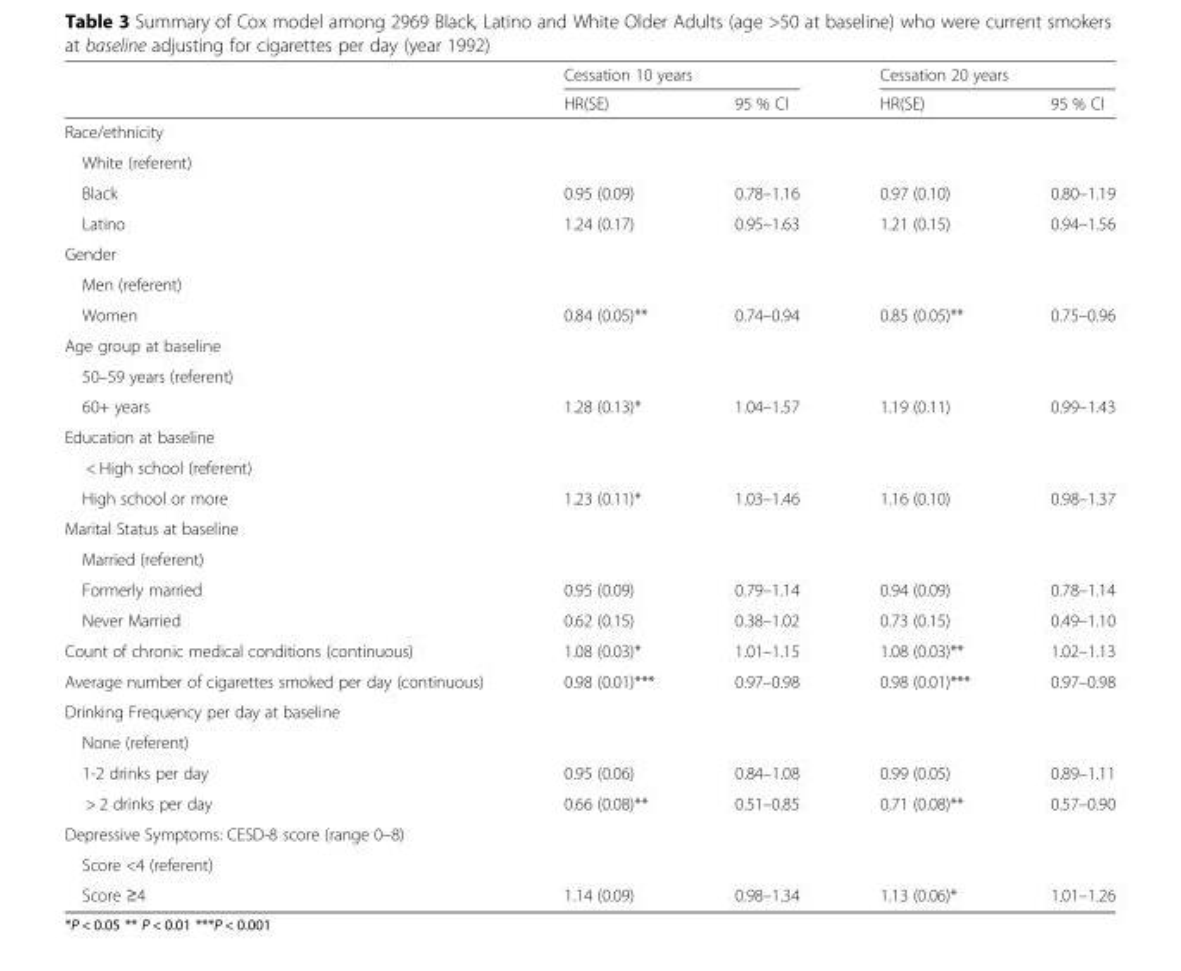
<table><thead><tr><td rowspan="2"></td><td colspan="2">Cessation 10 years</td><td colspan="2">Cessation 20 years</td></tr><tr><td>HR(SE)</td><td>95 % CI</td><td>HR(SE)</td><td>95 % CI</td></tr></thead><tbody><tr><td colspan="5">Race/ethnicity</td></tr><tr><td colspan="5">White (referent)</td></tr><tr><td>Black</td><td>0.95 (0.09)</td><td>0.78–1.16</td><td>0.97 (0.10)</td><td>0.80–1.19</td></tr><tr><td>Latino</td><td>1.24 (0.17)</td><td>0.95–1.63</td><td>1.21 (0.15)</td><td>0.94–1.56</td></tr><tr><td colspan="5">Gender</td></tr><tr><td colspan="5">Men (referent)</td></tr><tr><td>Women</td><td>0.84 (0.05)**</td><td>0.74–0.94</td><td>0.85 (0.05)**</td><td>0.75–0.96</td></tr><tr><td colspan="5">Age group at baseline</td></tr><tr><td colspan="5">50–59 years (referent)</td></tr><tr><td>60+ years</td><td>1.28 (0.13)*</td><td>1.04–1.57</td><td>1.19 (0.11)</td><td>0.99–1.43</td></tr><tr><td colspan="5">Education at baseline</td></tr><tr><td colspan="5">&lt; High school (referent)</td></tr><tr><td>High school or more</td><td>1.23 (0.11)*</td><td>1.03–1.46</td><td>1.16 (0.10)</td><td>0.98–1.37</td></tr><tr><td colspan="5">Marital Status at baseline</td></tr><tr><td colspan="5">Married (referent)</td></tr><tr><td>Formerly married</td><td>0.95 (0.09)</td><td>0.79–1.14</td><td>0.94 (0.09)</td><td>0.78–1.14</td></tr><tr><td>Never Married</td><td>0.62 (0.15)</td><td>0.38–1.02</td><td>0.73 (0.15)</td><td>0.49–1.10</td></tr><tr><td>Count of chronic medical conditions (continuous)</td><td>1.08 (0.03)*</td><td>1.01–1.15</td><td>1.08 (0.03)**</td><td>1.02–1.13</td></tr><tr><td>Average number of cigarettes smoked per day (continuous)</td><td>0.98 (0.01)***</td><td>0.97–0.98</td><td>0.98 (0.01)***</td><td>0.97–0.98</td></tr><tr><td colspan="5">Drinking Frequency per day at baseline</td></tr><tr><td colspan="5">None (referent)</td></tr><tr><td>1-2 drinks per day</td><td>0.95 (0.06)</td><td>0.84–1.08</td><td>0.99 (0.05)</td><td>0.89–1.11</td></tr><tr><td>&gt; 2 drinks per day</td><td>0.66 (0.08)**</td><td>0.51–0.85</td><td>0.71 (0.08)**</td><td>0.57–0.90</td></tr><tr><td colspan="5">Depressive Symptoms: CESD-8 score (range 0–8)</td></tr><tr><td colspan="5">Score &lt;4 (referent)</td></tr><tr><td>Score ≥4</td><td>1.14 (0.09)</td><td>0.98–1.34</td><td>1.13 (0.06)*</td><td>1.01–1.26</td></tr></tbody></table>